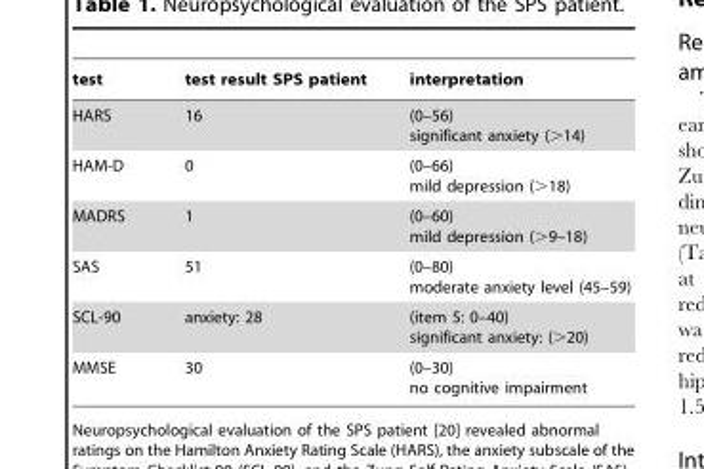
<table><thead><tr><td>test</td><td>test result SPS patient</td><td>interpretation</td></tr></thead><tbody><tr><td>HARS</td><td>16</td><td>(0–56) significant anxiety (&gt;14)</td></tr><tr><td>HAM-D</td><td>0</td><td>(0–66) mild depression (&gt;18)</td></tr><tr><td>MADRS</td><td>1</td><td>(0–60) mild depression (&gt;9–18)</td></tr><tr><td>SAS</td><td>51</td><td>(0–80) moderate anxiety level (45–59)</td></tr><tr><td>SCL-90</td><td>anxiety: 28</td><td>(item 5: 0–40) significant anxiety: (&gt;20)</td></tr><tr><td>MMSE</td><td>30</td><td>(0–30) no cognitive impairment</td></tr></tbody></table>